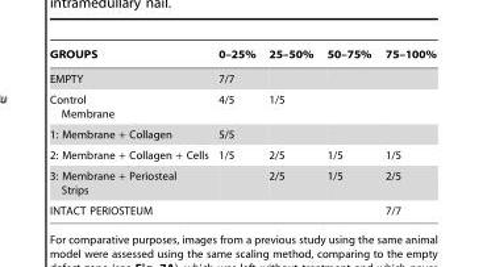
<table><thead><tr><td>GROUPS</td><td>0–25%</td><td>25–50%</td><td>50–75%</td><td>75–100%</td></tr></thead><tbody><tr><td>EMPTY</td><td>7/7</td><td></td><td></td><td></td></tr><tr><td>Control Membrane</td><td>4/5</td><td>1/5</td><td></td><td></td></tr><tr><td>1: Membrane + Collagen</td><td>5/5</td><td></td><td></td><td></td></tr><tr><td>2: Membrane + Collagen + Cells</td><td>1/5</td><td>2/5</td><td>1/5</td><td>1/5</td></tr><tr><td>3: Membrane + Periosteal Strips</td><td></td><td>2/5</td><td>1/5</td><td>2/5</td></tr><tr><td>INTACT PERIOSTEUM</td><td></td><td></td><td></td><td>7/7</td></tr></tbody></table>